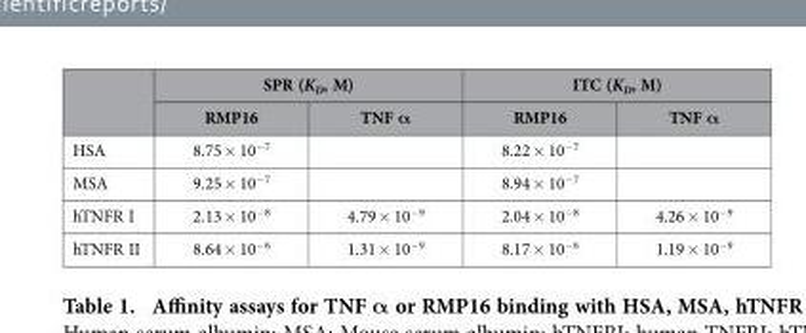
<table><thead><tr><td rowspan="2"></td><td colspan="2">SPR (K<sub>D</sub>, M)</td><td colspan="2">ITC (K<sub>D</sub>, M)</td></tr><tr><td>RMP16</td><td>TNF α</td><td>RMP16</td><td>TNF α</td></tr></thead><tbody><tr><td>HSA</td><td>8.75 × 10<sup>−7</sup></td><td></td><td>8.22 × 10<sup>−7</sup></td><td></td></tr><tr><td>MSA</td><td>9.25 × 10<sup>−7</sup></td><td></td><td>8.94 × 10<sup>−7</sup></td><td></td></tr><tr><td>hTNFR I</td><td>2.13 × 10<sup>−8</sup></td><td>4.79 × 10<sup>−9</sup></td><td>2.04 × 10<sup>−8</sup></td><td>4.26 × 10<sup>−9</sup></td></tr><tr><td>hTNFR II</td><td>8.64 × 10<sup>−6</sup></td><td>1.31 × 10<sup>−9</sup></td><td>8.17 × 10<sup>−6</sup></td><td>1.19 × 10<sup>−9</sup></td></tr></tbody></table>